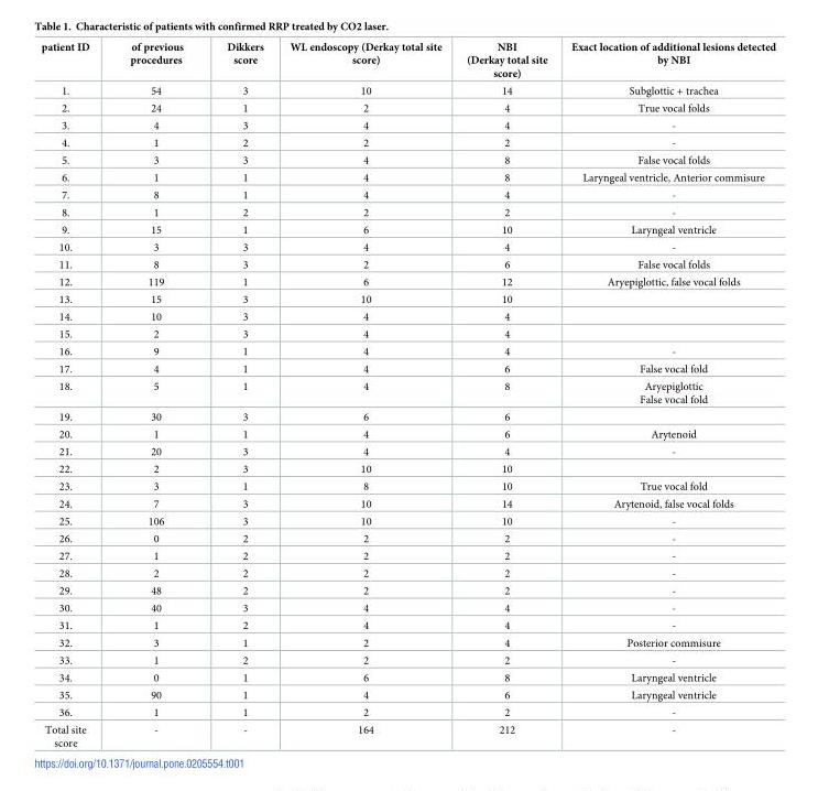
<table><thead><tr><td>patient ID</td><td>of previous procedures</td><td>Dikkers score</td><td>WL endoscopy (Derkay total site score)</td><td>NBI (Derkay total site score)</td><td>Exact location of additional lesions detected by NBI</td></tr></thead><tbody><tr><td>1.</td><td>54</td><td>3</td><td>10</td><td>14</td><td>Subglottic + trachea</td></tr><tr><td>2.</td><td>24</td><td>1</td><td>2</td><td>4</td><td>True vocal folds</td></tr><tr><td>3.</td><td>4</td><td>3</td><td>4</td><td>4</td><td>-</td></tr><tr><td>4.</td><td>1</td><td>2</td><td>2</td><td>2</td><td>-</td></tr><tr><td>5.</td><td>3</td><td>3</td><td>4</td><td>8</td><td>False vocal folds</td></tr><tr><td>6.</td><td>1</td><td>1</td><td>4</td><td>8</td><td>Laryngeal ventricle, Anterior commisure</td></tr><tr><td>7.</td><td>8</td><td>1</td><td>4</td><td>4</td><td>-</td></tr><tr><td>8.</td><td>1</td><td>2</td><td>2</td><td>2</td><td>-</td></tr><tr><td>9.</td><td>15</td><td>1</td><td>6</td><td>10</td><td>Laryngeal ventricle</td></tr><tr><td>10.</td><td>3</td><td>3</td><td>4</td><td>4</td><td>-</td></tr><tr><td>11.</td><td>8</td><td>3</td><td>2</td><td>6</td><td>False vocal folds</td></tr><tr><td>12.</td><td>119</td><td>1</td><td>6</td><td>12</td><td>Aryepiglottic, false vocal folds</td></tr><tr><td>13.</td><td>15</td><td>3</td><td>10</td><td>10</td><td></td></tr><tr><td>14.</td><td>10</td><td>3</td><td>4</td><td>4</td><td></td></tr><tr><td>15.</td><td>2</td><td>3</td><td>4</td><td>4</td><td></td></tr><tr><td>16.</td><td>9</td><td>1</td><td>4</td><td>4</td><td>-</td></tr><tr><td>17.</td><td>4</td><td>1</td><td>4</td><td>6</td><td>False vocal fold</td></tr><tr><td>18.</td><td>5</td><td>1</td><td>4</td><td>8</td><td>Aryepiglottic False vocal fold</td></tr><tr><td>19.</td><td>30</td><td>3</td><td>6</td><td>6</td><td></td></tr><tr><td>20.</td><td>1</td><td>1</td><td>4</td><td>6</td><td>Arytenoid</td></tr><tr><td>21.</td><td>20</td><td>3</td><td>4</td><td>4</td><td>-</td></tr><tr><td>22.</td><td>2</td><td>3</td><td>10</td><td>10</td><td></td></tr><tr><td>23.</td><td>3</td><td>1</td><td>8</td><td>10</td><td>True vocal fold</td></tr><tr><td>24.</td><td>7</td><td>3</td><td>10</td><td>14</td><td>Arytenoid, false vocal folds</td></tr><tr><td>25.</td><td>106</td><td>3</td><td>10</td><td>10</td><td>-</td></tr><tr><td>26.</td><td>0</td><td>2</td><td>2</td><td>2</td><td>-</td></tr><tr><td>27.</td><td>1</td><td>2</td><td>2</td><td>2</td><td>-</td></tr><tr><td>28.</td><td>2</td><td>2</td><td>2</td><td>2</td><td>-</td></tr><tr><td>29.</td><td>48</td><td>2</td><td>2</td><td>2</td><td>-</td></tr><tr><td>30.</td><td>40</td><td>3</td><td>4</td><td>4</td><td>-</td></tr><tr><td>31.</td><td>1</td><td>2</td><td>4</td><td>4</td><td>-</td></tr><tr><td>32.</td><td>3</td><td>1</td><td>2</td><td>4</td><td>Posterior commisure</td></tr><tr><td>33.</td><td>1</td><td>2</td><td>2</td><td>2</td><td>-</td></tr><tr><td>34.</td><td>0</td><td>1</td><td>6</td><td>8</td><td>Laryngeal ventricle</td></tr><tr><td>35.</td><td>90</td><td>1</td><td>4</td><td>6</td><td>Laryngeal ventricle</td></tr><tr><td>36.</td><td>1</td><td>1</td><td>2</td><td>2</td><td>-</td></tr><tr><td>Total site score</td><td>-</td><td>-</td><td>164</td><td>212</td><td>-</td></tr></tbody></table>